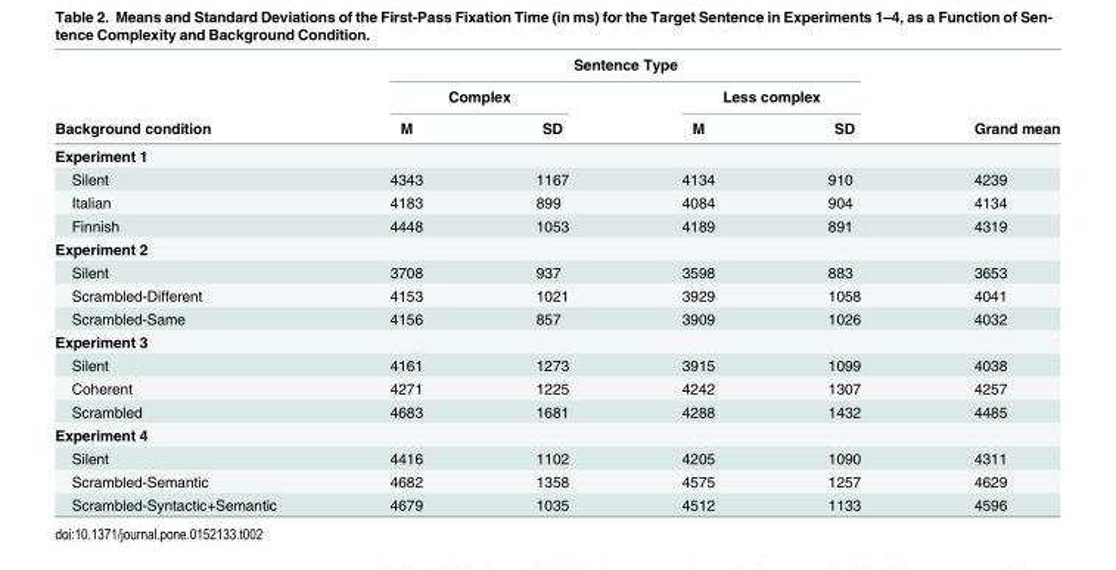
<table><thead><tr><td rowspan="3">Background condition</td><td colspan="4">Sentence Type</td><td rowspan="3">Grand mean</td></tr><tr><td colspan="2">Complex</td><td colspan="2">Less complex</td></tr><tr><td>M</td><td>SD</td><td>M</td><td>SD</td></tr></thead><tbody><tr><td colspan="6">Experiment 1</td></tr><tr><td>Silent</td><td>4343</td><td>1167</td><td>4134</td><td>910</td><td>4239</td></tr><tr><td>Italian</td><td>4183</td><td>899</td><td>4084</td><td>904</td><td>4134</td></tr><tr><td>Finnish</td><td>4448</td><td>1053</td><td>4189</td><td>891</td><td>4319</td></tr><tr><td colspan="6">Experiment 2</td></tr><tr><td>Silent</td><td>3708</td><td>937</td><td>3598</td><td>883</td><td>3653</td></tr><tr><td>Scrambled-Different</td><td>4153</td><td>1021</td><td>3929</td><td>1058</td><td>4041</td></tr><tr><td>Scrambled-Same</td><td>4156</td><td>857</td><td>3909</td><td>1026</td><td>4032</td></tr><tr><td colspan="6">Experiment 3</td></tr><tr><td>Silent</td><td>4161</td><td>1273</td><td>3915</td><td>1099</td><td>4038</td></tr><tr><td>Coherent</td><td>4271</td><td>1225</td><td>4242</td><td>1307</td><td>4257</td></tr><tr><td>Scrambled</td><td>4683</td><td>1681</td><td>4288</td><td>1432</td><td>4485</td></tr><tr><td colspan="6">Experiment 4</td></tr><tr><td>Silent</td><td>4416</td><td>1102</td><td>4205</td><td>1090</td><td>4311</td></tr><tr><td>Scrambled-Semantic</td><td>4682</td><td>1358</td><td>4575</td><td>1257</td><td>4629</td></tr><tr><td>Scrambled-Syntactic+Semantic</td><td>4679</td><td>1035</td><td>4512</td><td>1133</td><td>4596</td></tr></tbody></table>